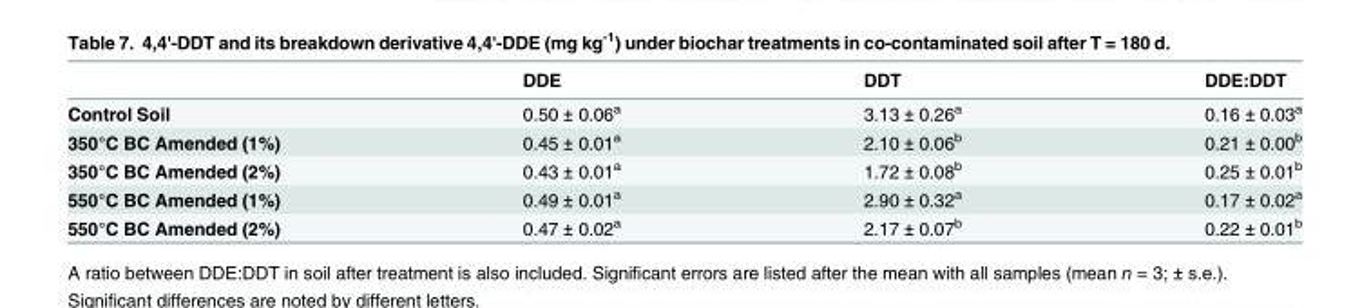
<table><thead><tr><td></td><td>DDE</td><td>DDT</td><td>DDE:DDT</td></tr></thead><tbody><tr><td>Control Soil</td><td>0.50 ± 0.06<sup>a</sup></td><td>3.13 ± 0.26<sup>a</sup></td><td>0.16 ± 0.03<sup>a</sup></td></tr><tr><td>350°C BC Amended (1%)</td><td>0.45 ± 0.01<sup>a</sup></td><td>2.10 ± 0.06<sup>b</sup></td><td>0.21 ± 0.00<sup>b</sup></td></tr><tr><td>350°C BC Amended (2%)</td><td>0.43 ± 0.01<sup>a</sup></td><td>1.72 ± 0.08<sup>b</sup></td><td>0.25 ± 0.01<sup>b</sup></td></tr><tr><td>550°C BC Amended (1%)</td><td>0.49 ± 0.01<sup>a</sup></td><td>2.90 ± 0.32<sup>a</sup></td><td>0.17 ± 0.02<sup>a</sup></td></tr><tr><td>550°C BC Amended (2%)</td><td>0.47 ± 0.02<sup>a</sup></td><td>2.17 ± 0.07<sup>b</sup></td><td>0.22 ± 0.01<sup>b</sup></td></tr></tbody></table>